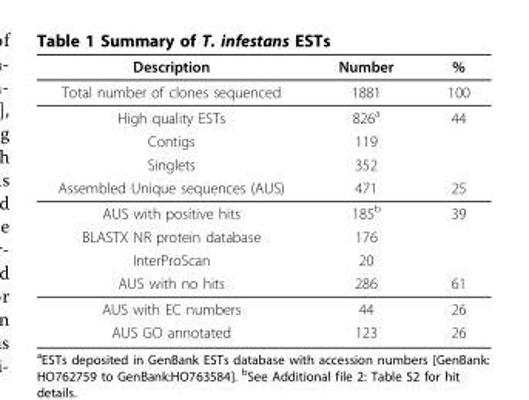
<table><thead><tr><td>Description</td><td>Number</td><td>%</td></tr></thead><tbody><tr><td>Total number of clones sequenced</td><td>1881</td><td>100</td></tr><tr><td>High quality ESTs</td><td>826<sup>a</sup></td><td>44</td></tr><tr><td>Contigs</td><td>119</td><td></td></tr><tr><td>Singlets</td><td>352</td><td></td></tr><tr><td>Assembled Unique sequences (AUS)</td><td>471</td><td>25</td></tr><tr><td>AUS with positive hits</td><td>185<sup>b</sup></td><td>39</td></tr><tr><td>BLASTX NR protein database</td><td>176</td><td></td></tr><tr><td>InterProScan</td><td>20</td><td></td></tr><tr><td>AUS with no hits</td><td>286</td><td>61</td></tr><tr><td>AUS with EC numbers</td><td>44</td><td>26</td></tr><tr><td>AUS GO annotated</td><td>123</td><td>26</td></tr></tbody></table>